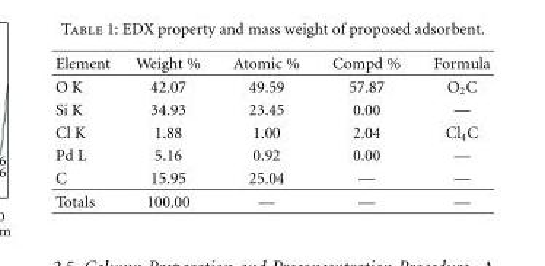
<table><thead><tr><td>Element</td><td>Weight %</td><td>Atomic %</td><td>Compd %</td><td>Formula</td></tr></thead><tbody><tr><td>O K</td><td>42.07</td><td>49.59</td><td>57.87</td><td>O<sub>2</sub>C</td></tr><tr><td>Si K</td><td>34.93</td><td>23.45</td><td>0.00</td><td>—</td></tr><tr><td>Cl K</td><td>1.88</td><td>1.00</td><td>2.04</td><td>Cl<sub>4</sub>C</td></tr><tr><td>Pd L</td><td>5.16</td><td>0.92</td><td>0.00</td><td>—</td></tr><tr><td>C</td><td>15.95</td><td>25.04</td><td>—</td><td>—</td></tr><tr><td>Totals</td><td>100.00</td><td>—</td><td>—</td><td>—</td></tr></tbody></table>